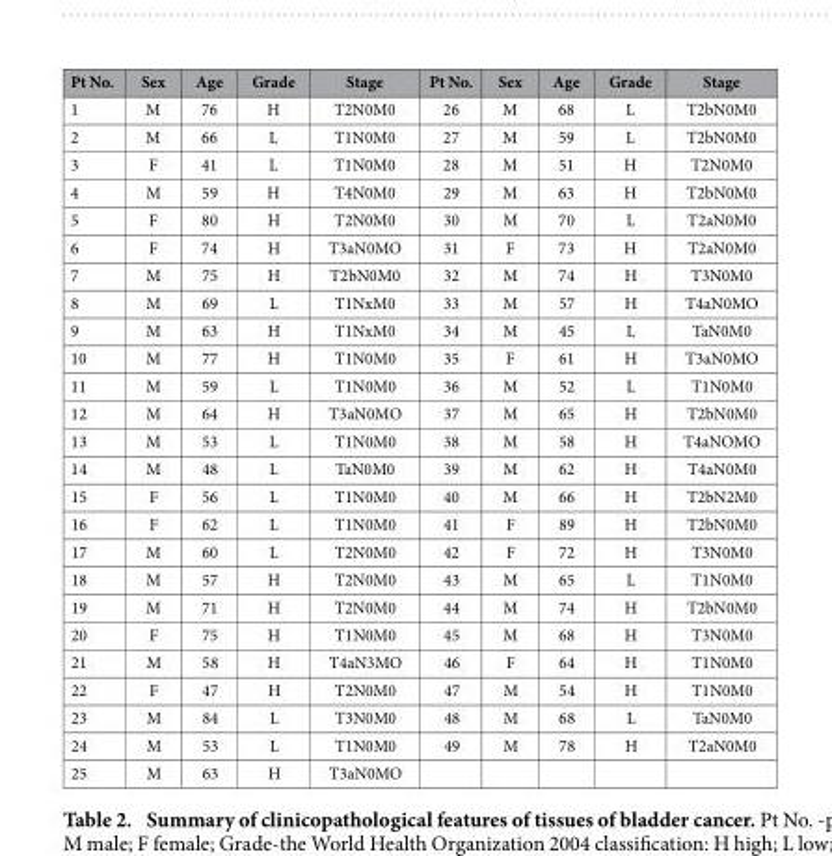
<table><thead><tr><td>Pt No.</td><td>Sex</td><td>Age</td><td>Grade</td><td>Stage</td><td>Pt No.</td><td>Sex</td><td>Age</td><td>Grade</td><td>Stage</td></tr></thead><tbody><tr><td>1</td><td>M</td><td>76</td><td>H</td><td>T2N0M0</td><td>26</td><td>M</td><td>68</td><td>L</td><td>T2bN0M0</td></tr><tr><td>2</td><td>M</td><td>66</td><td>L</td><td>T1N0M0</td><td>27</td><td>M</td><td>59</td><td>L</td><td>T2bN0M0</td></tr><tr><td>3</td><td>F</td><td>41</td><td>L</td><td>T1N0M0</td><td>28</td><td>M</td><td>51</td><td>H</td><td>T2N0M0</td></tr><tr><td>4</td><td>M</td><td>59</td><td>H</td><td>T4N0M0</td><td>29</td><td>M</td><td>63</td><td>H</td><td>T2bN0M0</td></tr><tr><td>5</td><td>F</td><td>80</td><td>H</td><td>T2N0M0</td><td>30</td><td>M</td><td>70</td><td>L</td><td>T2aN0M0</td></tr><tr><td>6</td><td>F</td><td>74</td><td>H</td><td>T3aN0MO</td><td>31</td><td>F</td><td>73</td><td>H</td><td>T2aN0M0</td></tr><tr><td>7</td><td>M</td><td>75</td><td>H</td><td>T2bN0M0</td><td>32</td><td>M</td><td>74</td><td>H</td><td>T3N0M0</td></tr><tr><td>8</td><td>M</td><td>69</td><td>L</td><td>T1NxM0</td><td>33</td><td>M</td><td>57</td><td>H</td><td>T4aN0MO</td></tr><tr><td>9</td><td>M</td><td>63</td><td>H</td><td>T1NxM0</td><td>34</td><td>M</td><td>45</td><td>L</td><td>TaN0M0</td></tr><tr><td>10</td><td>M</td><td>77</td><td>H</td><td>T1N0M0</td><td>35</td><td>F</td><td>61</td><td>H</td><td>T3aN0MO</td></tr><tr><td>11</td><td>M</td><td>59</td><td>L</td><td>T1N0M0</td><td>36</td><td>M</td><td>52</td><td>L</td><td>T1N0M0</td></tr><tr><td>12</td><td>M</td><td>64</td><td>H</td><td>T3aN0MO</td><td>37</td><td>M</td><td>65</td><td>H</td><td>T2bN0M0</td></tr><tr><td>13</td><td>M</td><td>53</td><td>L</td><td>T1N0M0</td><td>38</td><td>M</td><td>58</td><td>H</td><td>T4aNOMO</td></tr><tr><td>14</td><td>M</td><td>48</td><td>L</td><td>TaN0M0</td><td>39</td><td>M</td><td>62</td><td>H</td><td>T4aN0M0</td></tr><tr><td>15</td><td>F</td><td>56</td><td>L</td><td>T1N0M0</td><td>40</td><td>M</td><td>66</td><td>H</td><td>T2bN2M0</td></tr><tr><td>16</td><td>F</td><td>62</td><td>L</td><td>T1N0M0</td><td>41</td><td>F</td><td>89</td><td>H</td><td>T2bN0M0</td></tr><tr><td>17</td><td>M</td><td>60</td><td>L</td><td>T2N0M0</td><td>42</td><td>F</td><td>72</td><td>H</td><td>T3N0M0</td></tr><tr><td>18</td><td>M</td><td>57</td><td>H</td><td>T2N0M0</td><td>43</td><td>M</td><td>65</td><td>L</td><td>T1N0M0</td></tr><tr><td>19</td><td>M</td><td>71</td><td>H</td><td>T2N0M0</td><td>44</td><td>M</td><td>74</td><td>H</td><td>T2bN0M0</td></tr><tr><td>20</td><td>F</td><td>75</td><td>H</td><td>T1N0M0</td><td>45</td><td>M</td><td>68</td><td>H</td><td>T3N0M0</td></tr><tr><td>21</td><td>M</td><td>58</td><td>H</td><td>T4aN3MO</td><td>46</td><td>F</td><td>64</td><td>H</td><td>T1N0M0</td></tr><tr><td>22</td><td>F</td><td>47</td><td>H</td><td>T2N0M0</td><td>47</td><td>M</td><td>54</td><td>H</td><td>T1N0M0</td></tr><tr><td>23</td><td>M</td><td>84</td><td>L</td><td>T3N0M0</td><td>48</td><td>M</td><td>68</td><td>L</td><td>TaN0M0</td></tr><tr><td>24</td><td>M</td><td>53</td><td>L</td><td>T1N0M0</td><td>49</td><td>M</td><td>78</td><td>H</td><td>T2aN0M0</td></tr><tr><td>25</td><td>M</td><td>63</td><td>H</td><td>T3aN0MO</td><td></td><td></td><td></td><td></td><td></td></tr></tbody></table>